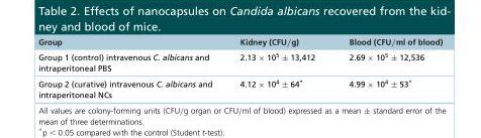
<table><thead><tr><td>Group</td><td>Kidney (CFU/g)</td><td>Blood (CFU/ml of blood)</td></tr></thead><tbody><tr><td>Group 1 (control) intravenous C. albicans and intraperitoneal PBS</td><td>2.13 × 10<sup>5</sup> ± 13,412</td><td>2.69 × 10<sup>5</sup> ± 12,536</td></tr><tr><td>Group 2 (curative) intravenous C. albicans and intraperitoneal NCs</td><td>4.12 × 10<sup>4</sup> ± 64*</td><td>4.99 × 10<sup>4</sup> ± 53*</td></tr></tbody></table>